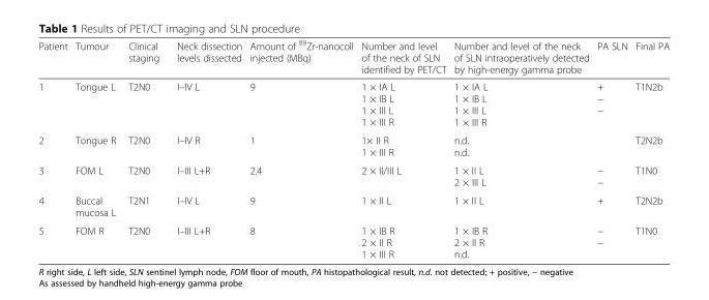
<table><thead><tr><td>Patient</td><td>Tumour</td><td>Clinical staging</td><td>Neck dissection levels dissected</td><td>Amount of <sup>89</sup>Zr-nanocoll injected (MBq)</td><td>Number and level of the neck of SLN identified by PET/CT</td><td>Number and level of the neck of SLN intraoperatively detected by high-energy gamma probe</td><td>PA SLN</td><td>Final PA</td></tr></thead><tbody><tr><td>1</td><td>Tongue L</td><td>T2N0</td><td>I–IV L</td><td>9</td><td>1 × IA L 1 × IB L 1 × III L 1 × III R</td><td>1 × IA L 1 × IB L 1 × III L 1 × III R</td><td>+ − −</td><td>T1N2b</td></tr><tr><td>2</td><td>Tongue R</td><td>T2N0</td><td>I–IV R</td><td>1</td><td>1× II R 1 × III R</td><td>n.d. n.d.</td><td></td><td>T2N2b</td></tr><tr><td>3</td><td>FOM L</td><td>T2N0</td><td>I–III L+R</td><td>2.4</td><td>2 × II/III L</td><td>1 × II L 2 × III L</td><td>− −</td><td>T1N0</td></tr><tr><td>4</td><td>Buccal mucosa L</td><td>T2N1</td><td>I–IV L</td><td>9</td><td>1 × II L</td><td>1 × II L</td><td>+</td><td>T2N2b</td></tr><tr><td>5</td><td>FOM R</td><td>T2N0</td><td>I–III L+R</td><td>8</td><td>1 × IB R 2 × II R 1 × III R</td><td>1 × IB R 2 × II R n.d.</td><td>− −</td><td>T1N0</td></tr></tbody></table>